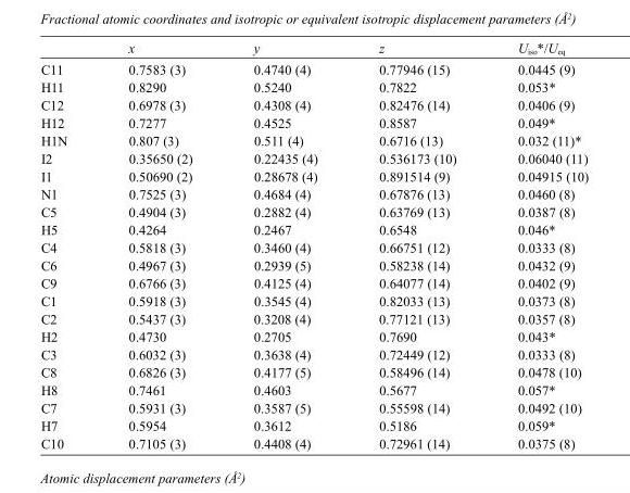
<table><thead><tr><td></td><td>x</td><td>y</td><td>z</td><td>U<sub>iso</sub>*/U<sub>eq</sub></td></tr></thead><tbody><tr><td>C11</td><td>0.7583 (3)</td><td>0.4740 (4)</td><td>0.77946 (15)</td><td>0.0445 (9)</td></tr><tr><td>H11</td><td>0.8290</td><td>0.5240</td><td>0.7822</td><td>0.053*</td></tr><tr><td>C12</td><td>0.6978 (3)</td><td>0.4308 (4)</td><td>0.82476 (14)</td><td>0.0406 (9)</td></tr><tr><td>H12</td><td>0.7277</td><td>0.4525</td><td>0.8587</td><td>0.049*</td></tr><tr><td>H1N</td><td>0.807 (3)</td><td>0.511 (4)</td><td>0.6716 (13)</td><td>0.032 (11)*</td></tr><tr><td>I2</td><td>0.35650 (2)</td><td>0.22435 (4)</td><td>0.536173 (10)</td><td>0.06040 (11)</td></tr><tr><td>I1</td><td>0.50690 (2)</td><td>0.28678 (4)</td><td>0.891514 (9)</td><td>0.04915 (10)</td></tr><tr><td>N1</td><td>0.7525 (3)</td><td>0.4684 (4)</td><td>0.67876 (13)</td><td>0.0460 (8)</td></tr><tr><td>C5</td><td>0.4904 (3)</td><td>0.2882 (4)</td><td>0.63769 (13)</td><td>0.0387 (8)</td></tr><tr><td>H5</td><td>0.4264</td><td>0.2467</td><td>0.6548</td><td>0.046*</td></tr><tr><td>C4</td><td>0.5818 (3)</td><td>0.3460 (4)</td><td>0.66751 (12)</td><td>0.0333 (8)</td></tr><tr><td>C6</td><td>0.4967 (3)</td><td>0.2939 (5)</td><td>0.58238 (14)</td><td>0.0432 (9)</td></tr><tr><td>C9</td><td>0.6766 (3)</td><td>0.4125 (4)</td><td>0.64077 (14)</td><td>0.0402 (9)</td></tr><tr><td>C1</td><td>0.5918 (3)</td><td>0.3545 (4)</td><td>0.82033 (13)</td><td>0.0373 (8)</td></tr><tr><td>C2</td><td>0.5437 (3)</td><td>0.3208 (4)</td><td>0.77121 (13)</td><td>0.0357 (8)</td></tr><tr><td>H2</td><td>0.4730</td><td>0.2705</td><td>0.7690</td><td>0.043*</td></tr><tr><td>C3</td><td>0.6032 (3)</td><td>0.3638 (4)</td><td>0.72449 (12)</td><td>0.0333 (8)</td></tr><tr><td>C8</td><td>0.6826 (3)</td><td>0.4177 (5)</td><td>0.58496 (14)</td><td>0.0478 (10)</td></tr><tr><td>H8</td><td>0.7461</td><td>0.4603</td><td>0.5677</td><td>0.057*</td></tr><tr><td>C7</td><td>0.5931 (3)</td><td>0.3587 (5)</td><td>0.55598 (14)</td><td>0.0492 (10)</td></tr><tr><td>H7</td><td>0.5954</td><td>0.3612</td><td>0.5186</td><td>0.059*</td></tr><tr><td>C10</td><td>0.7105 (3)</td><td>0.4408 (4)</td><td>0.72961 (14)</td><td>0.0375 (8)</td></tr></tbody></table>